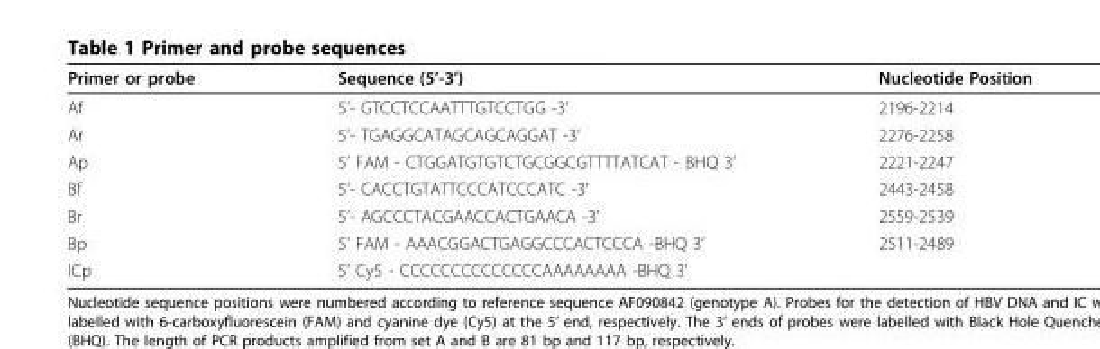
<table><thead><tr><td>Primer or probe</td><td>Sequence (5’-3’)</td><td>Nucleotide Position</td></tr></thead><tbody><tr><td>Af</td><td>5’- GTCCTCCAATTTGTCCTGG -3’</td><td>2196-2214</td></tr><tr><td>Ar</td><td>5’- TGAGGCATAGCAGCAGGAT -3’</td><td>2276-2258</td></tr><tr><td>Ap</td><td>5’ FAM - CTGGATGTGTCTGCGGCGTTTTATCAT - BHQ 3’</td><td>2221-2247</td></tr><tr><td>Bf</td><td>5’- CACCTGTATTCCCATCCCATC -3’</td><td>2443-2458</td></tr><tr><td>Br</td><td>5’- AGCCCTACGAACCACTGAACA -3’</td><td>2559-2539</td></tr><tr><td>Bp</td><td>5’ FAM - AAACGGACTGAGGCCCACTCCCA -BHQ 3’</td><td>2511-2489</td></tr><tr><td>ICp</td><td>5’ Cy5 - CCCCCCCCCCCCCCAAAAAAAA -BHQ 3’</td><td></td></tr></tbody></table>